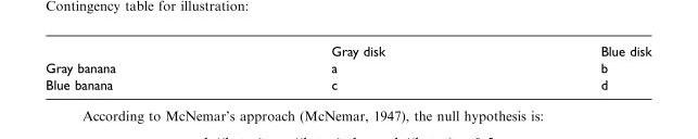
<table><thead><tr><td></td><td>Gray disk</td><td>Blue disk</td></tr></thead><tbody><tr><td>Gray banana</td><td>a</td><td>b</td></tr><tr><td>Blue banana</td><td>c</td><td>d</td></tr></tbody></table>